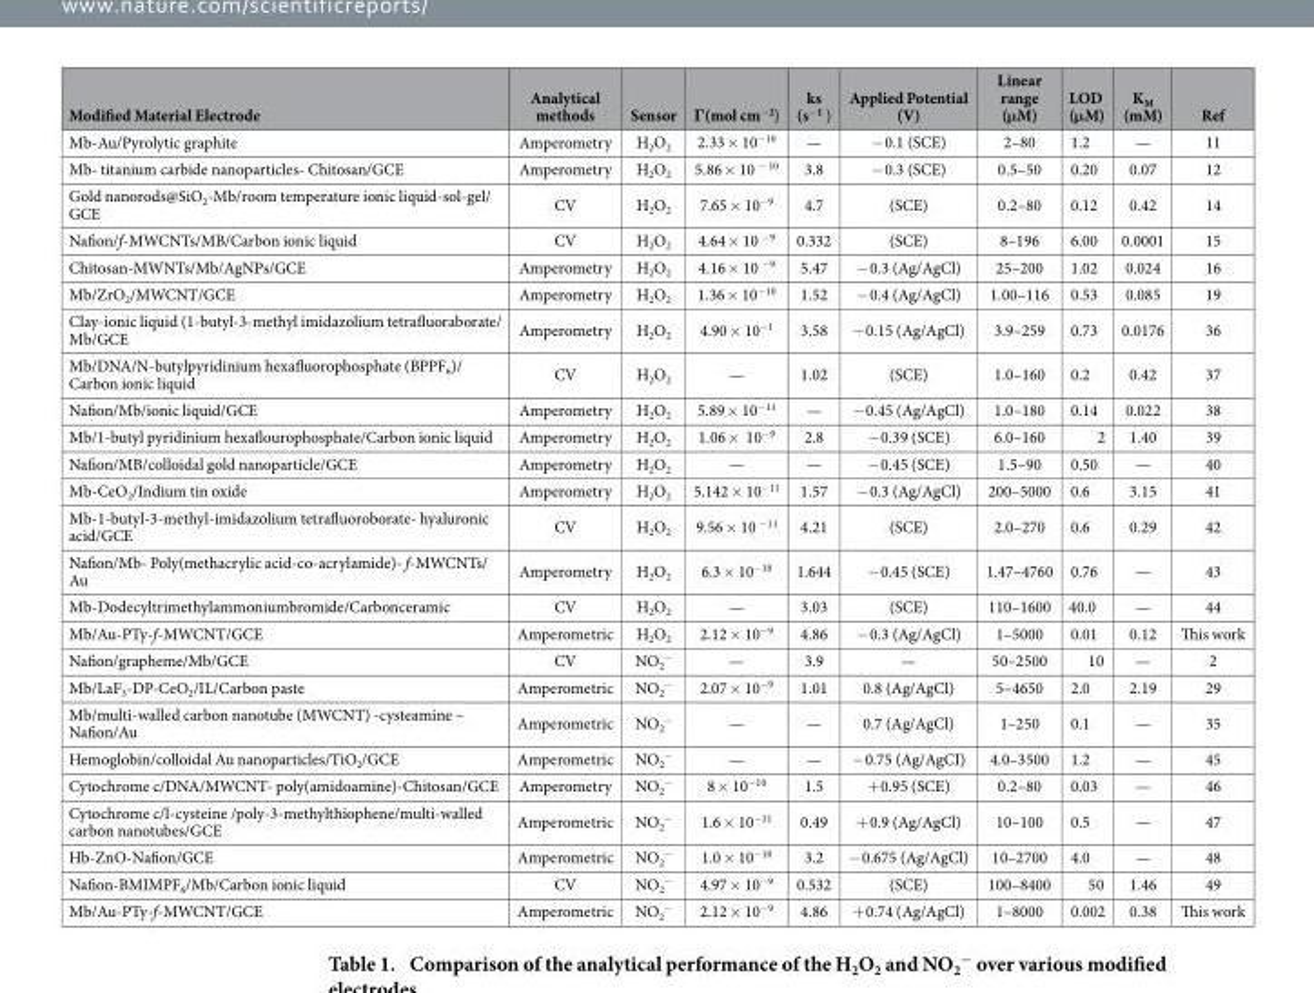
<table><thead><tr><td>Modified Material Electrode</td><td>Analytical methods</td><td>Sensor</td><td>Γ(mol cm<sup>−2</sup>)</td><td>ks (s<sup>−1</sup> )</td><td>Applied Potential (V)</td><td>Linear range (μM)</td><td>LOD (μM)</td><td>K<sub>M</sub> (mM)</td><td>Ref</td></tr></thead><tbody><tr><td>Mb-Au/Pyrolytic graphite</td><td>Amperometry</td><td>H<sub>2</sub>O<sub>2</sub></td><td>2.33 × 10<sup>−10</sup></td><td>—</td><td>− 0.1 (SCE)</td><td>2–80</td><td>1.2</td><td>—</td><td>11</td></tr><tr><td>Mb- titanium carbide nanoparticles- Chitosan/GCE</td><td>Amperometry</td><td>H<sub>2</sub>O<sub>2</sub></td><td>5.86 × 10 <sup>− 10</sup></td><td>3.8</td><td>− 0.3 (SCE)</td><td>0.5–50</td><td>0.20</td><td>0.07</td><td>12</td></tr><tr><td>Gold nanorods@SiO<sub>2</sub>-Mb/room temperature ionic liquid-sol-gel/ GCE</td><td>CV</td><td>H<sub>2</sub>O<sub>2</sub></td><td>7.65 × 10<sup>−9</sup></td><td>4.7</td><td>(SCE)</td><td>0.2–80</td><td>0.12</td><td>0.42</td><td>14</td></tr><tr><td>Nafion/f-MWCNTs/MB/Carbon ionic liquid</td><td>CV</td><td>H<sub>2</sub>O<sub>2</sub></td><td>4.64 × 10 <sup>−9</sup></td><td>0.332</td><td>(SCE)</td><td>8–196</td><td>6.00</td><td>0.0001</td><td>15</td></tr><tr><td>Chitosan-MWNTs/Mb/AgNPs/GCE</td><td>Amperometry</td><td>H<sub>2</sub>O<sub>2</sub></td><td>4.16 × 10 <sup>−9</sup></td><td>5.47</td><td>− 0.3 (Ag/AgCl)</td><td>25–200</td><td>1.02</td><td>0.024</td><td>16</td></tr><tr><td>Mb/ZrO<sub>2</sub>/MWCNT/GCE</td><td>Amperometry</td><td>H<sub>2</sub>O<sub>2</sub></td><td>1.36 × 10<sup>−10</sup></td><td>1.52</td><td>− 0.4 (Ag/AgCl)</td><td>1.00–116</td><td>0.53</td><td>0.085</td><td>19</td></tr><tr><td>Clay-ionic liquid (1-butyl-3-methyl imidazolium tetrafluoraborate/ Mb/GCE</td><td>Amperometry</td><td>H<sub>2</sub>O<sub>2</sub></td><td>4.90 × 10<sup>−1</sup></td><td>3.58</td><td>− 0.15 (Ag/AgCl)</td><td>3.9–259</td><td>0.73</td><td>0.0176</td><td>36</td></tr><tr><td>Mb/DNA/N-butylpyridinium hexafluorophosphate (BPPF<sub>6</sub>)/ Carbon ionic liquid</td><td>CV</td><td>H<sub>2</sub>O<sub>2</sub></td><td>—</td><td>1.02</td><td>(SCE)</td><td>1.0–160</td><td>0.2</td><td>0.42</td><td>37</td></tr><tr><td>Nafion/Mb/ionic liquid/GCE</td><td>Amperometry</td><td>H<sub>2</sub>O<sub>2</sub></td><td>5.89 × 10<sup>−11</sup></td><td>—</td><td>− 0.45 (Ag/AgCl)</td><td>1.0–180</td><td>0.14</td><td>0.022</td><td>38</td></tr><tr><td>Mb/1-butyl pyridinium hexaflourophosphate/Carbon ionic liquid</td><td>Amperometry</td><td>H<sub>2</sub>O<sub>2</sub></td><td>1.06 × 10<sup>−9</sup></td><td>2.8</td><td>− 0.39 (SCE)</td><td>6.0–160</td><td>2</td><td>1.40</td><td>39</td></tr><tr><td>Nafion/MB/colloidal gold nanoparticle/GCE</td><td>Amperometry</td><td>H<sub>2</sub>O<sub>2</sub></td><td>—</td><td>—</td><td>− 0.45 (SCE)</td><td>1.5–90</td><td>0.50</td><td>—</td><td>40</td></tr><tr><td>Mb-CeO<sub>2</sub>/Indium tin oxide</td><td>Amperometry</td><td>H<sub>2</sub>O<sub>2</sub></td><td>5.142 × 10<sup>−11</sup></td><td>1.57</td><td>− 0.3 (Ag/AgCl)</td><td>200–5000</td><td>0.6</td><td>3.15</td><td>41</td></tr><tr><td>Mb-1-butyl-3-methyl-imidazolium tetrafluoroborate- hyaluronic acid/GCE</td><td>CV</td><td>H<sub>2</sub>O<sub>2</sub></td><td>9.56 × 10 <sup>−11</sup></td><td>4.21</td><td>(SCE)</td><td>2.0–270</td><td>0.6</td><td>0.29</td><td>42</td></tr><tr><td>Nafion/Mb- Poly(methacrylic acid-co-acrylamide)- f-MWCNTs/ Au</td><td>Amperometry</td><td>H<sub>2</sub>O<sub>2</sub></td><td>6.3 × 10<sup>−10</sup></td><td>1.644</td><td>− 0.45 (SCE)</td><td>1.47–4760</td><td>0.76</td><td>—</td><td>43</td></tr><tr><td>Mb-Dodecyltrimethylammoniumbromide/Carbonceramic</td><td>CV</td><td>H<sub>2</sub>O<sub>2</sub></td><td>—</td><td>3.03</td><td>(SCE)</td><td>110–1600</td><td>40.0</td><td>—</td><td>44</td></tr><tr><td>Mb/Au-PTy-f-MWCNT/GCE</td><td>Amperometric</td><td>H<sub>2</sub>O<sub>2</sub></td><td>2.12 × 10<sup>−9</sup></td><td>4.86</td><td>− 0.3 (Ag/AgCl)</td><td>1–5000</td><td>0.01</td><td>0.12</td><td>This work</td></tr><tr><td>Nafion/grapheme/Mb/GCE</td><td>CV</td><td>NO<sub>2</sub> <sup>−</sup></td><td>—</td><td>3.9</td><td>—</td><td>50–2500</td><td>10</td><td>—</td><td>2</td></tr><tr><td>Mb/LaF<sub>3</sub>-DP-CeO<sub>2</sub>/IL/Carbon paste</td><td>Amperometric</td><td>NO<sub>2</sub> <sup>−</sup></td><td>2.07 × 10<sup>−9</sup></td><td>1.01</td><td>0.8 (Ag/AgCl)</td><td>5–4650</td><td>2.0</td><td>2.19</td><td>29</td></tr><tr><td>Mb/multi-walled carbon nanotube (MWCNT) -cysteamine – Nafion/Au</td><td>Amperometric</td><td>NO<sub>2</sub> <sup>−</sup></td><td>—</td><td>—</td><td>0.7 (Ag/AgCl)</td><td>1–250</td><td>0.1</td><td>—</td><td>35</td></tr><tr><td>Hemoglobin/colloidal Au nanoparticles/TiO<sub>2</sub>/GCE</td><td>Amperometric</td><td>NO<sub>2</sub> <sup>−</sup></td><td>—</td><td>—</td><td>− 0.75 (Ag/AgCI)</td><td>4.0–3500</td><td>1.2</td><td>—</td><td>45</td></tr><tr><td>Cytochrome c/DNA/MWCNT- poly(amidoamine)-Chitosan/GCE</td><td>Amperometry</td><td>NO<sub>2</sub> <sup>−</sup></td><td>8 × 10<sup>−10</sup></td><td>1.5</td><td>+ 0.95 (SCE)</td><td>0.2–80</td><td>0.03</td><td>—</td><td>46</td></tr><tr><td>Cytochrome c/l-cysteine /poly-3-methylthiophene/multi-walled carbon nanotubes/GCE</td><td>Amperometric</td><td>NO<sub>2</sub> <sup>−</sup></td><td>1.6 × 10<sup>−11</sup></td><td>0.49</td><td>+ 0.9 (Ag/AgCl)</td><td>10–100</td><td>0.5</td><td>—</td><td>47</td></tr><tr><td>Hb-ZnO-Nafion/GCE</td><td>Amperometric</td><td>NO<sub>2</sub> <sup>−</sup></td><td>1.0 × 10<sup>−10</sup></td><td>3.2</td><td>− 0.675 (Ag/AgCl)</td><td>10–2700</td><td>4.0</td><td>—</td><td>48</td></tr><tr><td>Nafion-BMIMPF<sub>6</sub>/Mb/Carbon ionic liquid</td><td>CV</td><td>NO<sub>2</sub> <sup>−</sup></td><td>4.97 × 10<sup>−9</sup></td><td>0.532</td><td>(SCE)</td><td>100–8400</td><td>50</td><td>1.46</td><td>49</td></tr><tr><td>Mb/Au-PTy-f-MWCNT/GCE</td><td>Amperometric</td><td>NO<sub>2</sub> <sup>−</sup></td><td>2.12 × 10<sup>−9</sup></td><td>4.86</td><td>+ 0.74 (Ag/AgCl)</td><td>1–8000</td><td>0.002</td><td>0.38</td><td>This work</td></tr></tbody></table>